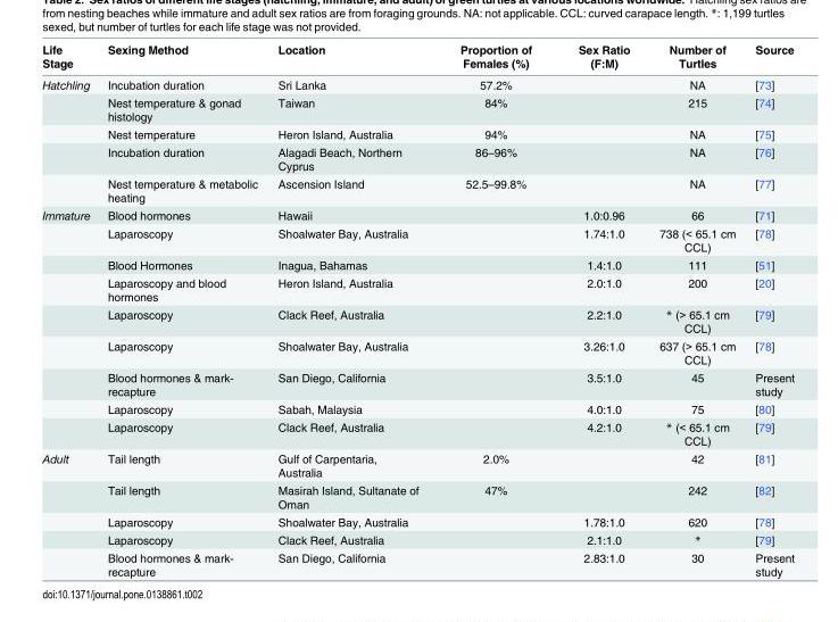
<table><thead><tr><td>Life Stage</td><td>Sexing Method</td><td>Location</td><td>Proportion of Females (%)</td><td>Sex Ratio (F:M)</td><td>Number of Turtles</td><td>Source</td></tr></thead><tbody><tr><td rowspan="5">Hatchling</td><td>Incubation duration</td><td>Sri Lanka</td><td>57.2%</td><td></td><td>NA</td><td>[73]</td></tr><tr><td>Nest temperature &amp; gonad histology</td><td>Taiwan</td><td>84%</td><td></td><td>215</td><td>[74]</td></tr><tr><td>Nest temperature</td><td>Heron Island, Australia</td><td>94%</td><td></td><td>NA</td><td>[75]</td></tr><tr><td>Incubation duration</td><td>Alagadi Beach, Northern Cyprus</td><td>86–96%</td><td></td><td>NA</td><td>[76]</td></tr><tr><td>Nest temperature &amp; metabolic heating</td><td>Ascension Island</td><td>52.5–99.8%</td><td></td><td>NA</td><td>[77]</td></tr><tr><td rowspan="9">Immature</td><td>Blood hormones</td><td>Hawaii</td><td></td><td>1.0:0.96</td><td>66</td><td>[71]</td></tr><tr><td>Laparoscopy</td><td>Shoalwater Bay, Australia</td><td></td><td>1.74:1.0</td><td>738 (&lt; 65.1 cm CCL)</td><td>[78]</td></tr><tr><td>Blood Hormones</td><td>Inagua, Bahamas</td><td></td><td>1.4:1.0</td><td>111</td><td>[51]</td></tr><tr><td>Laparoscopy and blood hormones</td><td>Heron Island, Australia</td><td></td><td>2.0:1.0</td><td>200</td><td>[20]</td></tr><tr><td>Laparoscopy</td><td>Clack Reef, Australia</td><td></td><td>2.2:1.0</td><td>* (&gt; 65.1 cm CCL)</td><td>[79]</td></tr><tr><td>Laparoscopy</td><td>Shoalwater Bay, Australia</td><td></td><td>3.26:1.0</td><td>637 (&gt; 65.1 cm CCL)</td><td>[78]</td></tr><tr><td>Blood hormones &amp; mark- recapture</td><td>San Diego, California</td><td></td><td>3.5:1.0</td><td>45</td><td>Present study</td></tr><tr><td>Laparoscopy</td><td>Sabah, Malaysia</td><td></td><td>4.0:1.0</td><td>75</td><td>[80]</td></tr><tr><td>Laparoscopy</td><td>Clack Reef, Australia</td><td></td><td>4.2:1.0</td><td>* (&lt; 65.1 cm CCL)</td><td>[79]</td></tr><tr><td rowspan="5">Adult</td><td>Tail length</td><td>Gulf of Carpentaria, Australia</td><td>2.0%</td><td></td><td>42</td><td>[81]</td></tr><tr><td>Tail length</td><td>Masirah Island, Sultanate of Oman</td><td>47%</td><td></td><td>242</td><td>[82]</td></tr><tr><td>Laparoscopy</td><td>Shoalwater Bay, Australia</td><td></td><td>1.78:1.0</td><td>620</td><td>[78]</td></tr><tr><td>Laparoscopy</td><td>Clack Reef, Australia</td><td></td><td>2.1:1.0</td><td>*</td><td>[79]</td></tr><tr><td>Blood hormones &amp; mark- recapture</td><td>San Diego, California</td><td></td><td>2.83:1.0</td><td>30</td><td>Present study</td></tr></tbody></table>